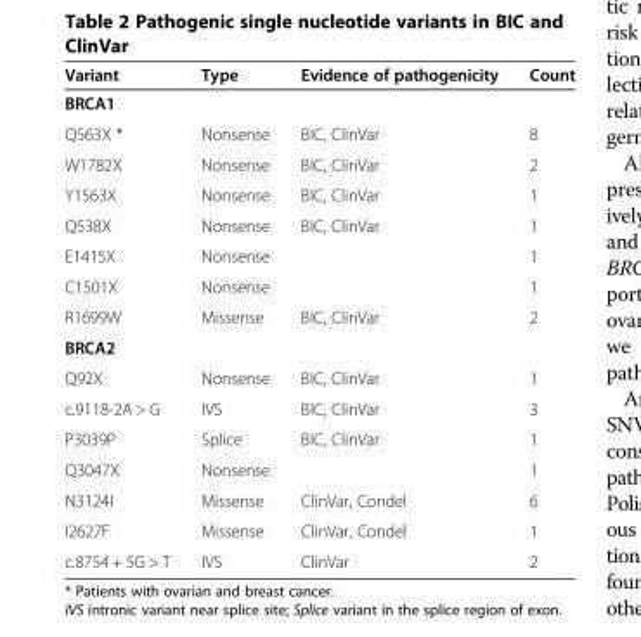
<table><thead><tr><td>Variant</td><td>Type</td><td>Evidence of pathogenicity</td><td>Count</td></tr></thead><tbody><tr><td colspan="4">BRCA1</td></tr><tr><td>Q563X *</td><td>Nonsense</td><td>BIC, ClinVar</td><td>8</td></tr><tr><td>W1782X</td><td>Nonsense</td><td>BIC, ClinVar</td><td>2</td></tr><tr><td>Y1563X</td><td>Nonsense</td><td>BIC, ClinVar</td><td>1</td></tr><tr><td>Q538X</td><td>Nonsense</td><td>BIC, ClinVar</td><td>1</td></tr><tr><td>E1415X</td><td>Nonsense</td><td></td><td>1</td></tr><tr><td>C1501X</td><td>Nonsense</td><td></td><td>1</td></tr><tr><td>R1699W</td><td>Missense</td><td>BIC, ClinVar</td><td>2</td></tr><tr><td colspan="4">BRCA2</td></tr><tr><td>Q92X</td><td>Nonsense</td><td>BIC, ClinVar</td><td>1</td></tr><tr><td>c.9118-2A &gt; G</td><td>IVS</td><td>BIC, ClinVar</td><td>3</td></tr><tr><td>P3039P</td><td>Splice</td><td>BIC, ClinVar</td><td>1</td></tr><tr><td>Q3047X</td><td>Nonsense</td><td></td><td>1</td></tr><tr><td>N3124I</td><td>Missense</td><td>ClinVar, Condel</td><td>6</td></tr><tr><td>I2627F</td><td>Missense</td><td>ClinVar, Condel</td><td>1</td></tr><tr><td>c.8754 + 5G &gt; T</td><td>IVS</td><td>ClinVar</td><td>2</td></tr></tbody></table>